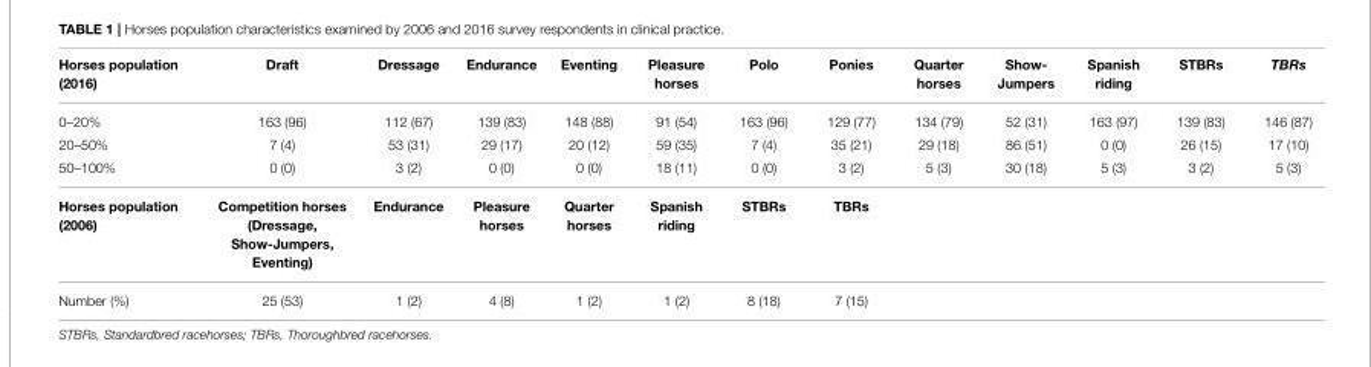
<table><thead><tr><td>Horses population (2016)</td><td>Draft</td><td>Dressage</td><td>Endurance</td><td>Eventing</td><td>Pleasure horses</td><td>Polo</td><td>Ponies</td><td>Quarter horses</td><td>Show- Jumpers</td><td>Spanish riding</td><td>STBRs</td><td>TBRs</td></tr></thead><tbody><tr><td>0–20%</td><td>163 (96)</td><td>112 (67)</td><td>139 (83)</td><td>148 (88)</td><td>91 (54)</td><td>163 (96)</td><td>129 (77)</td><td>134 (79)</td><td>52 (31)</td><td>163 (97)</td><td>139 (83)</td><td>146 (87)</td></tr><tr><td>20–50%</td><td>7 (4)</td><td>53 (31)</td><td>29 (17)</td><td>20 (12)</td><td>59 (35)</td><td>7 (4)</td><td>35 (21)</td><td>29 (18)</td><td>86 (51)</td><td>0 (0)</td><td>26 (15)</td><td>17 (10)</td></tr><tr><td>50–100%</td><td>0 (0)</td><td>3 (2)</td><td>0 (0)</td><td>0 (0)</td><td>18 (11)</td><td>0 (0)</td><td>3 (2)</td><td>5 (3)</td><td>30 (18)</td><td>5 (3)</td><td>3 (2)</td><td>5 (3)</td></tr><tr><td>Horses population (2006)</td><td>Competition horses (Dressage, Show-Jumpers, Eventing)</td><td>Endurance</td><td>Pleasure horses</td><td>Quarter horses</td><td>Spanish riding</td><td>STBRs</td><td>TBRs</td><td></td><td></td><td></td><td></td><td></td></tr><tr><td>Number (%)</td><td>25 (53)</td><td>1 (2)</td><td>4 (8)</td><td>1 (2)</td><td>1 (2)</td><td>8 (18)</td><td>7 (15)</td><td></td><td></td><td></td><td></td><td></td></tr></tbody></table>